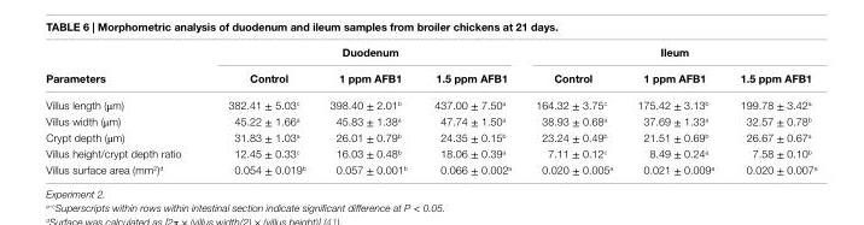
<table><thead><tr><td rowspan="2">Parameters</td><td colspan="3">Duodenum</td><td colspan="3">ileum</td></tr><tr><td>control</td><td>1 ppm aFB1</td><td>1.5 ppm aFB1</td><td>control</td><td>1 ppm aFB1</td><td>1.5 ppm aFB1</td></tr></thead><tbody><tr><td>Villus length (μm)</td><td>382.41 ± 5.03<sup>c</sup></td><td>398.40 ± 2.01<sup>b</sup></td><td>437.00 ± 7.50<sup>a</sup></td><td>164.32 ± 3.75<sup>c</sup></td><td>175.42 ± 3.13<sup>b</sup></td><td>199.78 ± 3.42<sup>a</sup></td></tr><tr><td>Villus width (μm)</td><td>45.22 ± 1.66<sup>a</sup></td><td>45.83 ± 1.38<sup>a</sup></td><td>47.74 ± 1.50<sup>a</sup></td><td>38.93 ± 0.68<sup>a</sup></td><td>37.69 ± 1.33<sup>a</sup></td><td>32.57 ± 0.78<sup>b</sup></td></tr><tr><td>Crypt depth (μm)</td><td>31.83 ± 1.03<sup>a</sup></td><td>26.01 ± 0.79<sup>b</sup></td><td>24.35 ± 0.15<sup>b</sup></td><td>23.24 ± 0.49<sup>b</sup></td><td>21.51 ± 0.69<sup>b</sup></td><td>26.67 ± 0.67<sup>a</sup></td></tr><tr><td>Villus height/crypt depth ratio</td><td>12.45 ± 0.33<sup>c</sup></td><td>16.03 ± 0.48<sup>b</sup></td><td>18.06 ± 0.39<sup>a</sup></td><td>7.11 ± 0.12<sup>c</sup></td><td>8.49 ± 0.24<sup>a</sup></td><td>7.58 ± 0.10<sup>b</sup></td></tr><tr><td>Villus surface area (mm<sup>2</sup>)<sup>d</sup></td><td>0.054 ± 0.019<sup>b</sup></td><td>0.057 ± 0.001<sup>b</sup></td><td>0.066 ± 0.002<sup>a</sup></td><td>0.020 ± 0.005<sup>a</sup></td><td>0.021 ± 0.009<sup>a</sup></td><td>0.020 ± 0.007<sup>a</sup></td></tr></tbody></table>